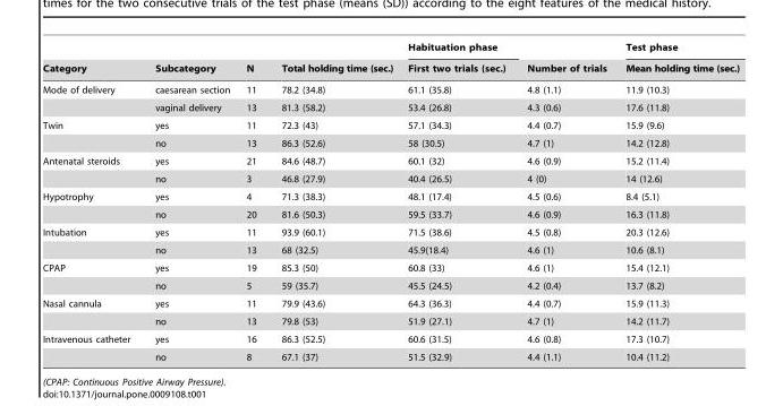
<table><thead><tr><td rowspan="2">Category</td><td rowspan="2">Subcategory</td><td rowspan="2">N</td><td rowspan="2">Total holding time (sec.)</td><td rowspan="2">Habituation phase First two trials (sec.)</td><td rowspan="2">Number of trials</td><td rowspan="2">Test phase Mean holding time (sec.)</td></tr><tr></tr></thead><tbody><tr><td rowspan="2">Mode of delivery</td><td>caesarean section</td><td>11</td><td>78.2 (34.8)</td><td>61.1 (35.8)</td><td>4.8 (1.1)</td><td>11.9 (10.3)</td></tr><tr><td>vaginal delivery</td><td>13</td><td>81.3 (58.2)</td><td>53.4 (26.8)</td><td>4.3 (0.6)</td><td>17.6 (11.8)</td></tr><tr><td rowspan="2">Twin</td><td>yes</td><td>11</td><td>72.3 (43)</td><td>57.1 (34.3)</td><td>4.4 (0.7)</td><td>15.9 (9.6)</td></tr><tr><td>no</td><td>13</td><td>86.3 (52.6)</td><td>58 (30.5)</td><td>4.7 (1)</td><td>14.2 (12.8)</td></tr><tr><td rowspan="2">Antenatal steroids</td><td>yes</td><td>21</td><td>84.6 (48.7)</td><td>60.1 (32)</td><td>4.6 (0.9)</td><td>15.2 (11.4)</td></tr><tr><td>no</td><td>3</td><td>46.8 (27.9)</td><td>40.4 (26.5)</td><td>4 (0)</td><td>14 (12.6)</td></tr><tr><td rowspan="2">Hypotrophy</td><td>yes</td><td>4</td><td>71.3 (38.3)</td><td>48.1 (17.4)</td><td>4.5 (0.6)</td><td>8.4 (5.1)</td></tr><tr><td>no</td><td>20</td><td>81.6 (50.3)</td><td>59.5 (33.7)</td><td>4.6 (0.9)</td><td>16.3 (11.8)</td></tr><tr><td rowspan="2">Intubation</td><td>yes</td><td>11</td><td>93.9 (60.1)</td><td>71.5 (38.6)</td><td>4.5 (0.8)</td><td>20.3 (12.6)</td></tr><tr><td>no</td><td>13</td><td>68 (32.5)</td><td>45.9(18.4)</td><td>4.6 (1)</td><td>10.6 (8.1)</td></tr><tr><td rowspan="2">CPAP</td><td>yes</td><td>19</td><td>85.3 (50)</td><td>60.8 (33)</td><td>4.6 (1)</td><td>15.4 (12.1)</td></tr><tr><td>no</td><td>5</td><td>59 (35.7)</td><td>45.5 (24.5)</td><td>4.2 (0.4)</td><td>13.7 (8.2)</td></tr><tr><td rowspan="2">Nasal cannula</td><td>yes</td><td>11</td><td>79.9 (43.6)</td><td>64.3 (36.3)</td><td>4.4 (0.7)</td><td>15.9 (11.3)</td></tr><tr><td>no</td><td>13</td><td>79.8 (53)</td><td>51.9 (27.1)</td><td>4.7 (1)</td><td>14.2 (11.7)</td></tr><tr><td rowspan="2">Intravenous catheter</td><td>yes</td><td>16</td><td>86.3 (52.5)</td><td>60.6 (31.5)</td><td>4.6 (0.8)</td><td>17.3 (10.7)</td></tr><tr><td>no</td><td>8</td><td>67.1 (37)</td><td>51.5 (32.9)</td><td>4.4 (1.1)</td><td>10.4 (11.2)</td></tr></tbody></table>